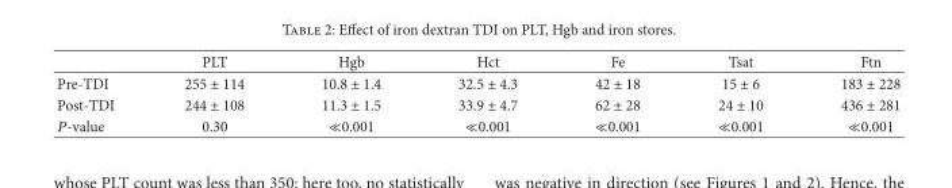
<table><thead><tr><td></td><td>PLT</td><td>Hgb</td><td>Hct</td><td>Fe</td><td>Tsat</td><td>Ftn</td></tr></thead><tbody><tr><td>Pre-TDI</td><td>255 ± 114</td><td>10.8 ± 1.4</td><td>32.5 ± 4.3</td><td>42 ± 18</td><td>15 ± 6</td><td>183 ± 228</td></tr><tr><td>Post-TDI</td><td>244 ± 108</td><td>11.3 ± 1.5</td><td>33.9 ± 4.7</td><td>62 ± 28</td><td>24 ± 10</td><td>436 ± 281</td></tr><tr><td>𝑃𝑃-value</td><td>0.30</td><td>≪0.001</td><td>≪0.001</td><td>≪0.001</td><td>≪0.001</td><td>≪0.001</td></tr></tbody></table>